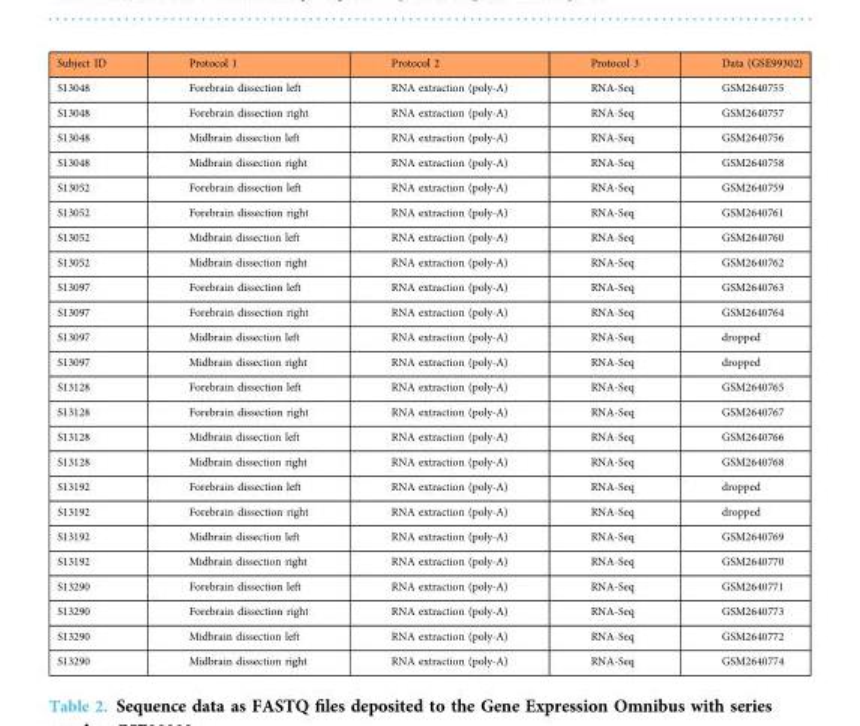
<table><thead><tr><td>Subject ID</td><td>Protocol 1</td><td>Protocol 2</td><td>Protocol 3</td><td>Data (GSE99302)</td></tr></thead><tbody><tr><td>S13048</td><td>Forebrain dissection left</td><td>RNA extraction (poly-A)</td><td>RNA-Seq</td><td>GSM2640755</td></tr><tr><td>S13048</td><td>Forebrain dissection right</td><td>RNA extraction (poly-A)</td><td>RNA-Seq</td><td>GSM2640757</td></tr><tr><td>S13048</td><td>Midbrain dissection left</td><td>RNA extraction (poly-A)</td><td>RNA-Seq</td><td>GSM2640756</td></tr><tr><td>S13048</td><td>Midbrain dissection right</td><td>RNA extraction (poly-A)</td><td>RNA-Seq</td><td>GSM2640758</td></tr><tr><td>S13052</td><td>Forebrain dissection left</td><td>RNA extraction (poly-A)</td><td>RNA-Seq</td><td>GSM2640759</td></tr><tr><td>S13052</td><td>Forebrain dissection right</td><td>RNA extraction (poly-A)</td><td>RNA-Seq</td><td>GSM2640761</td></tr><tr><td>S13052</td><td>Midbrain dissection left</td><td>RNA extraction (poly-A)</td><td>RNA-Seq</td><td>GSM2640760</td></tr><tr><td>S13052</td><td>Midbrain dissection right</td><td>RNA extraction (poly-A)</td><td>RNA-Seq</td><td>GSM2640762</td></tr><tr><td>S13097</td><td>Forebrain dissection left</td><td>RNA extraction (poly-A)</td><td>RNA-Seq</td><td>GSM2640763</td></tr><tr><td>S13097</td><td>Forebrain dissection right</td><td>RNA extraction (poly-A)</td><td>RNA-Seq</td><td>GSM2640764</td></tr><tr><td>S13097</td><td>Midbrain dissection left</td><td>RNA extraction (poly-A)</td><td>RNA-Seq</td><td>dropped</td></tr><tr><td>S13097</td><td>Midbrain dissection right</td><td>RNA extraction (poly-A)</td><td>RNA-Seq</td><td>dropped</td></tr><tr><td>S13128</td><td>Forebrain dissection left</td><td>RNA extraction (poly-A)</td><td>RNA-Seq</td><td>GSM2640765</td></tr><tr><td>S13128</td><td>Forebrain dissection right</td><td>RNA extraction (poly-A)</td><td>RNA-Seq</td><td>GSM2640767</td></tr><tr><td>S13128</td><td>Midbrain dissection left</td><td>RNA extraction (poly-A)</td><td>RNA-Seq</td><td>GSM2640766</td></tr><tr><td>S13128</td><td>Midbrain dissection right</td><td>RNA extraction (poly-A)</td><td>RNA-Seq</td><td>GSM2640768</td></tr><tr><td>S13192</td><td>Forebrain dissection left</td><td>RNA extraction (poly-A)</td><td>RNA-Seq</td><td>dropped</td></tr><tr><td>S13192</td><td>Forebrain dissection right</td><td>RNA extraction (poly-A)</td><td>RNA-Seq</td><td>dropped</td></tr><tr><td>S13192</td><td>Midbrain dissection left</td><td>RNA extraction (poly-A)</td><td>RNA-Seq</td><td>GSM2640769</td></tr><tr><td>S13192</td><td>Midbrain dissection right</td><td>RNA extraction (poly-A)</td><td>RNA-Seq</td><td>GSM2640770</td></tr><tr><td>S13290</td><td>Forebrain dissection left</td><td>RNA extraction (poly-A)</td><td>RNA-Seq</td><td>GSM2640771</td></tr><tr><td>S13290</td><td>Forebrain dissection right</td><td>RNA extraction (poly-A)</td><td>RNA-Seq</td><td>GSM2640773</td></tr><tr><td>S13290</td><td>Midbrain dissection left</td><td>RNA extraction (poly-A)</td><td>RNA-Seq</td><td>GSM2640772</td></tr><tr><td>S13290</td><td>Midbrain dissection right</td><td>RNA extraction (poly-A)</td><td>RNA-Seq</td><td>GSM2640774</td></tr></tbody></table>